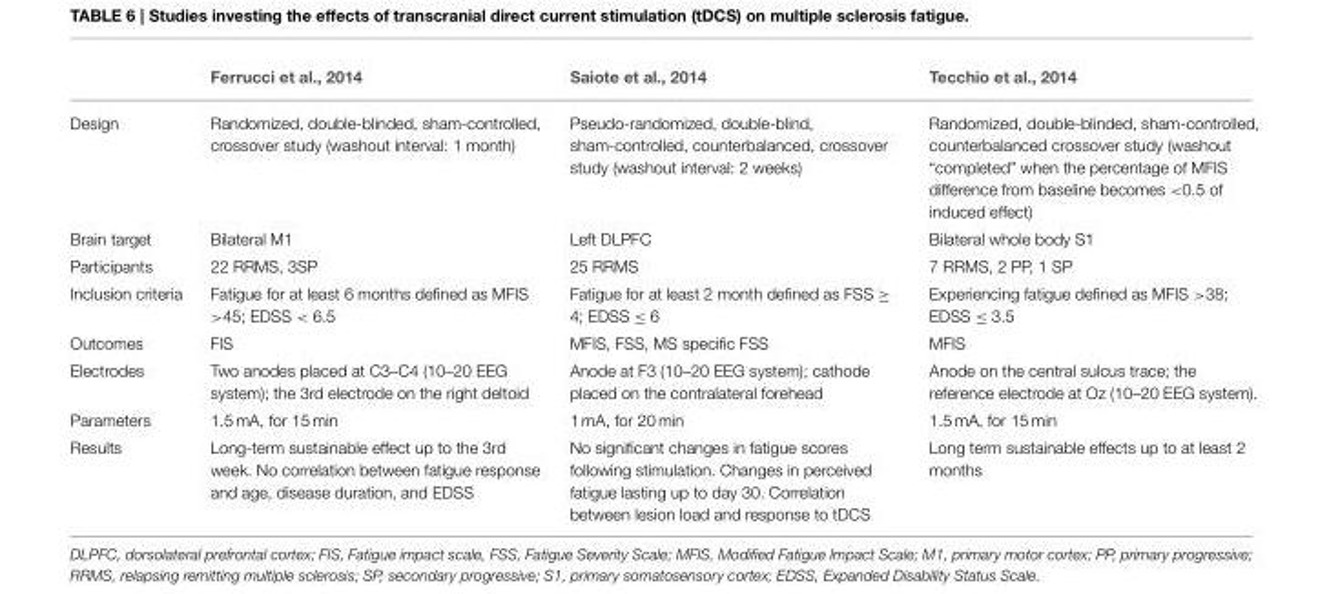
<table><thead><tr><td></td><td>Ferrucci et al., 2014</td><td>Saiote et al., 2014</td><td>Tecchio et al., 2014</td></tr></thead><tbody><tr><td>Design</td><td>Randomized, double-blinded, sham-controlled, crossover study (washout interval: 1 month)</td><td>Pseudo-randomized, double-blind, sham-controlled, counterbalanced, crossover study (washout interval: 2 weeks)</td><td>Randomized, double-blinded, sham-controlled, counterbalanced crossover study (washout “completed” when the percentage of MFIS difference from baseline becomes &lt;0.5 of induced effect)</td></tr><tr><td>Brain target</td><td>Bilateral M1</td><td>Left DLPFC</td><td>Bilateral whole body S1</td></tr><tr><td>Participants</td><td>22 RRMS, 3SP</td><td>25 RRMS</td><td>7 RRMS, 2 PP, 1 SP</td></tr><tr><td>Inclusion criteria</td><td>Fatigue for at least 6 months defined as MFIS &gt;45; EDSS &lt; 6.5</td><td>Fatigue for at least 2 month defined as FSS ≥ 4; EDSS ≤ 6</td><td>Experiencing fatigue defined as MFIS &gt;38; EDSS ≤ 3.5</td></tr><tr><td>Outcomes</td><td>FIS</td><td>MFIS, FSS, MS specific FSS</td><td>MFIS</td></tr><tr><td>Electrodes</td><td>Two anodes placed at C3–C4 (10–20 EEG system); the 3rd electrode on the right deltoid</td><td>Anode at F3 (10–20 EEG system); cathode placed on the contralateral forehead</td><td>Anode on the central sulcus trace; the reference electrode at Oz (10–20 EEG system).</td></tr><tr><td>Parameters</td><td>1.5 mA, for 15 min</td><td>1 mA, for 20 min</td><td>1.5 mA, for 15 min</td></tr><tr><td>Results</td><td>Long-term sustainable effect up to the 3rd week. No correlation between fatigue response and age, disease duration, and EDSS</td><td>No significant changes in fatigue scores following stimulation. Changes in perceived fatigue lasting up to day 30. Correlation between lesion load and response to tDCS</td><td>Long term sustainable effects up to at least 2 months</td></tr></tbody></table>